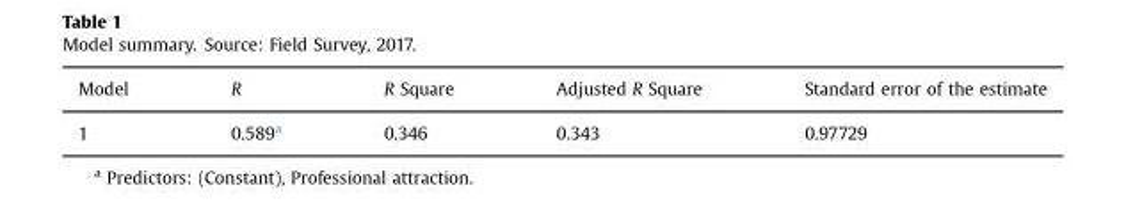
<table><thead><tr><td>Model</td><td>R</td><td>R Square</td><td>Adjusted R Square</td><td>Standard error of the estimate</td></tr></thead><tbody><tr><td>1</td><td>0.589<sup>a</sup></td><td>0.346</td><td>0.343</td><td>0.97729</td></tr></tbody></table>